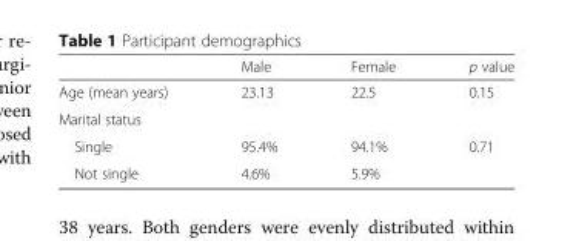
<table><thead><tr><td></td><td>Male</td><td>Female</td><td>p value</td></tr></thead><tbody><tr><td>Age (mean years)</td><td>23.13</td><td>22.5</td><td>0.15</td></tr><tr><td colspan="4">Marital status</td></tr><tr><td>Single</td><td>95.4%</td><td>94.1%</td><td rowspan="2">0.71</td></tr><tr><td>Not single</td><td>4.6%</td><td>5.9%</td></tr></tbody></table>